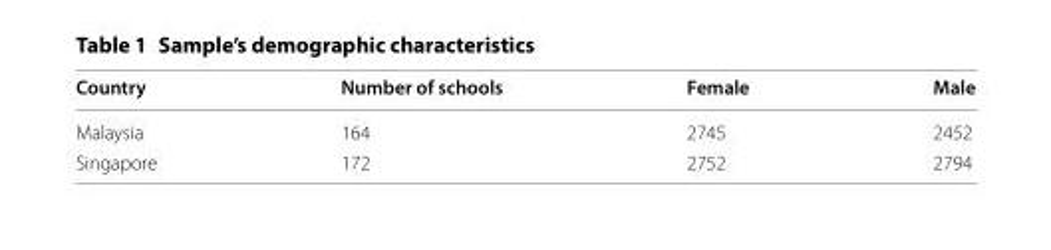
<table><thead><tr><td>Country</td><td>Number of schools</td><td>Female</td><td>Male</td></tr></thead><tbody><tr><td>Malaysia</td><td>164</td><td>2745</td><td>2452</td></tr><tr><td>Singapore</td><td>172</td><td>2752</td><td>2794</td></tr></tbody></table>